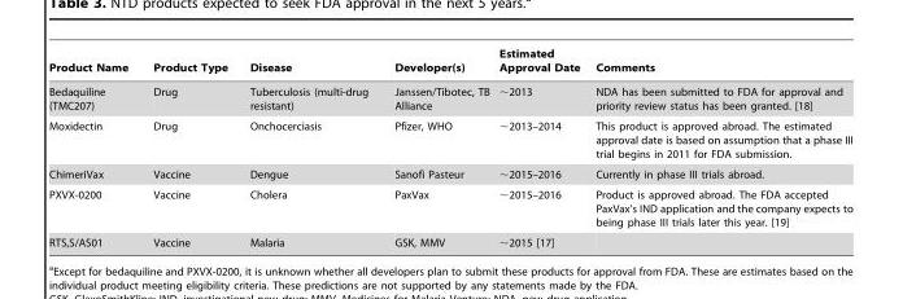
<table><thead><tr><td>Product Name</td><td>Product Type</td><td>Disease</td><td>Developer(s)</td><td>Estimated Approval Date</td><td>Comments</td></tr></thead><tbody><tr><td>Bedaquiline (TMC207)</td><td>Drug</td><td>Tuberculosis (multi-drug resistant)</td><td>Janssen/Tibotec, TB Alliance</td><td>∼2013</td><td>NDA has been submitted to FDA for approval and priority review status has been granted. [18]</td></tr><tr><td>Moxidectin</td><td>Drug</td><td>Onchocerciasis</td><td>Pfizer, WHO</td><td>∼2013–2014</td><td>This product is approved abroad. The estimated approval date is based on assumption that a phase III trial begins in 2011 for FDA submission.</td></tr><tr><td>ChimeriVax</td><td>Vaccine</td><td>Dengue</td><td>Sanofi Pasteur</td><td>∼2015–2016</td><td>Currently in phase III trials abroad.</td></tr><tr><td>PXVX-0200</td><td>Vaccine</td><td>Cholera</td><td>PaxVax</td><td>∼2015–2016</td><td>Product is approved abroad. The FDA accepted PaxVax’s IND application and the company expects to being phase III trials later this year. [19]</td></tr><tr><td>RTS,S/AS01</td><td>Vaccine</td><td>Malaria</td><td>GSK, MMV</td><td>∼2015 [17]</td><td></td></tr></tbody></table>